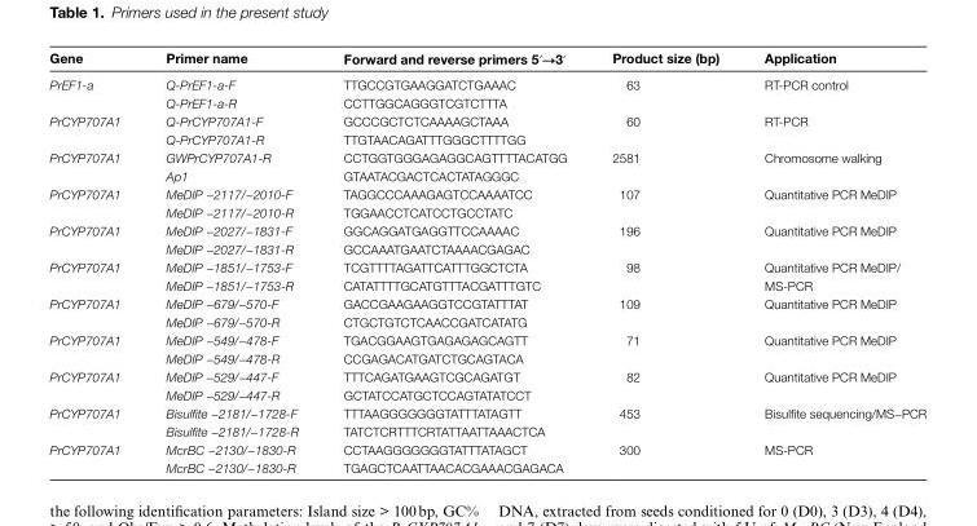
<table><thead><tr><td>Gene</td><td>Primer name</td><td>Forward and reverse primers 5ʹ→3ʹ</td><td>Product size (bp)</td><td>Application</td></tr></thead><tbody><tr><td rowspan="2">PrEF1-a</td><td>Q-PrEF1-a-F</td><td>TTGCCGTGAAGGATCTGAAAC</td><td rowspan="2">63</td><td rowspan="2">RT-PCR control</td></tr><tr><td>Q-PrEF1-a-R</td><td>CCTTGGCAGGGTCGTCTTTA</td></tr><tr><td rowspan="2">PrCYP707A1</td><td>Q-PrCYP707A1-F</td><td>GCCCGCTCTCAAAAGCTAAA</td><td rowspan="2">60</td><td rowspan="2">RT-PCR</td></tr><tr><td>Q-PrCYP707A1-R</td><td>TTGTAACAGATTTGGGCTTTTGG</td></tr><tr><td rowspan="2">PrCYP707A1</td><td>GWPrCYP707A1-R</td><td>CCTGGTGGGAGAGGCAGTTTTACATGG</td><td rowspan="2">2581</td><td rowspan="2">Chromosome walking</td></tr><tr><td>Ap1</td><td>GTAATACGACTCACTATAGGGC</td></tr><tr><td rowspan="2">PrCYP707A1</td><td>MeDIP −2117/−2010-F</td><td>TAGGCCCAAAGAGTCCAAAATCC</td><td rowspan="2">107</td><td rowspan="2">Quantitative PCR MeDIP</td></tr><tr><td>MeDIP −2117/−2010-R</td><td>TGGAACCTCATCCTGCCTATC</td></tr><tr><td rowspan="2">PrCYP707A1</td><td>MeDIP −2027/−1831-F</td><td>GGCAGGATGAGGTTCCAAAAC</td><td rowspan="2">196</td><td rowspan="2">Quantitative PCR MeDIP</td></tr><tr><td>MeDIP −2027/−1831-R</td><td>GCCAAATGAATCTAAAACGAGAC</td></tr><tr><td rowspan="2">PrCYP707A1</td><td>MeDIP −1851/−1753-F</td><td>TCGTTTTAGATTCATTTGGCTCTA</td><td rowspan="2">98</td><td rowspan="2">Quantitative PCR MeDIP/ MS-PCR</td></tr><tr><td>MeDIP −1851/−1753-R</td><td>CATATTTTGCATGTTTACGATTTGTC</td></tr><tr><td rowspan="2">PrCYP707A1</td><td>MeDIP −679/−570-F</td><td>GACCGAAGAAGGTCCGTATTTAT</td><td rowspan="2">109</td><td rowspan="2">Quantitative PCR MeDIP</td></tr><tr><td>MeDIP −679/−570-R</td><td>CTGCTGTCTCAACCGATCATATG</td></tr><tr><td rowspan="2">PrCYP707A1</td><td>MeDIP −549/−478-F</td><td>TGACGGAAGTGAGAGAGCAGTT</td><td rowspan="2">71</td><td rowspan="2">Quantitative PCR MeDIP</td></tr><tr><td>MeDIP −549/−478-R</td><td>CCGAGACATGATCTGCAGTACA</td></tr><tr><td rowspan="2">PrCYP707A1</td><td>MeDIP −529/−447-F</td><td>TTTCAGATGAAGTCGCAGATGT</td><td rowspan="2">82</td><td rowspan="2">Quantitative PCR MeDIP</td></tr><tr><td>MeDIP −529/−447-R</td><td>GCTATCCATGCTCCAGTATATCCT</td></tr><tr><td rowspan="2">PrCYP707A1</td><td>Bisulfite −2181/−1728-F</td><td>TTTAAGGGGGGGTATTTATAGTT</td><td rowspan="2">453</td><td rowspan="2">Bisulfite sequencing/MS−PCR</td></tr><tr><td>Bisulfite −2181/−1728-R</td><td>TATCTCRTTTCRTATTAATTAAACTCA</td></tr><tr><td rowspan="2">PrCYP707A1</td><td>McrBC −2130/−1830-R</td><td>CCTAAGGGGGGGTATTTATAGCT</td><td rowspan="2">300</td><td rowspan="2">MS-PCR</td></tr><tr><td>McrBC −2130/−1830-R</td><td>TGAGCTCAATTAACACGAAACGAGACA</td></tr></tbody></table>